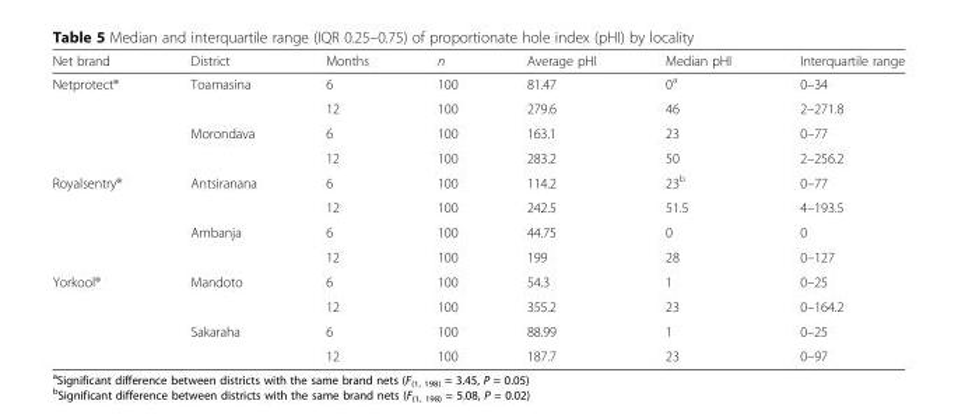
<table><thead><tr><td>Net brand</td><td>District</td><td>Months</td><td>n</td><td>Average pHI</td><td>Median pHI</td><td>Interquartile range</td></tr></thead><tbody><tr><td rowspan="4">Netprotect®</td><td rowspan="2">Toamasina</td><td>6</td><td>100</td><td>81.47</td><td>0<sup>a</sup></td><td>0–34</td></tr><tr><td>12</td><td>100</td><td>279.6</td><td>46</td><td>2–271.8</td></tr><tr><td rowspan="2">Morondava</td><td>6</td><td>100</td><td>163.1</td><td>23</td><td>0–77</td></tr><tr><td>12</td><td>100</td><td>283.2</td><td>50</td><td>2–256.2</td></tr><tr><td rowspan="4">Royalsentry®</td><td rowspan="2">Antsiranana</td><td>6</td><td>100</td><td>114.2</td><td>23<sup>b</sup></td><td>0–77</td></tr><tr><td>12</td><td>100</td><td>242.5</td><td>51.5</td><td>4–193.5</td></tr><tr><td rowspan="2">Ambanja</td><td>6</td><td>100</td><td>44.75</td><td>0</td><td>0</td></tr><tr><td>12</td><td>100</td><td>199</td><td>28</td><td>0–127</td></tr><tr><td rowspan="4">Yorkool®</td><td rowspan="2">Mandoto</td><td>6</td><td>100</td><td>54.3</td><td>1</td><td>0–25</td></tr><tr><td>12</td><td>100</td><td>355.2</td><td>23</td><td>0–164.2</td></tr><tr><td rowspan="2">Sakaraha</td><td>6</td><td>100</td><td>88.99</td><td>1</td><td>0–25</td></tr><tr><td>12</td><td>100</td><td>187.7</td><td>23</td><td>0–97</td></tr></tbody></table>